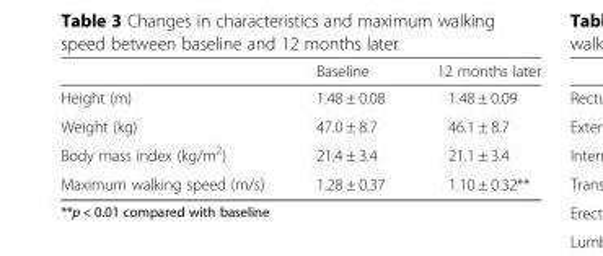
<table><thead><tr><td></td><td>Baseline</td><td>12 months later</td></tr></thead><tbody><tr><td>Height (m)</td><td>1.48 ± 0.08</td><td>1.48 ± 0.09</td></tr><tr><td>Weight (kg)</td><td>47.0 ± 8.7</td><td>46.1 ± 8.7</td></tr><tr><td>Body mass index (kg/m<sup>2</sup>)</td><td>21.4 ± 3.4</td><td>21.1 ± 3.4</td></tr><tr><td>Maximum walking speed (m/s)</td><td>1.28 ± 0.37</td><td>1.10 ± 0.32**</td></tr></tbody></table>